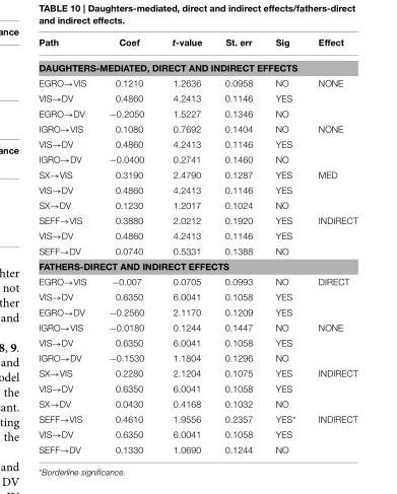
<table><thead><tr><td>Path</td><td>Coef</td><td>t-value</td><td>St. err</td><td>Sig</td><td>Effect</td></tr></thead><tbody><tr><td colspan="6">DAUGHTERS-MEDIATED, DIRECT AND INDIRECT EFFECTS</td></tr><tr><td>EGRO→VIS</td><td>0.1210</td><td>1.2636</td><td>0.0958</td><td>NO</td><td>NONE</td></tr><tr><td>VIS→DV</td><td>0.4860</td><td>4.2413</td><td>0.1146</td><td>YES</td><td></td></tr><tr><td>EGRO→DV</td><td>−0.2050</td><td>1.5227</td><td>0.1346</td><td>NO</td><td></td></tr><tr><td>IGRO→VIS</td><td>0.1080</td><td>0.7692</td><td>0.1404</td><td>NO</td><td>NONE</td></tr><tr><td>VIS→DV</td><td>0.4860</td><td>4.2413</td><td>0.1146</td><td>YES</td><td></td></tr><tr><td>IGRO→DV</td><td>−0.0400</td><td>0.2741</td><td>0.1460</td><td>NO</td><td></td></tr><tr><td>SX→VIS</td><td>0.3190</td><td>2.4790</td><td>0.1287</td><td>YES</td><td>MED</td></tr><tr><td>VIS→DV</td><td>0.4860</td><td>4.2413</td><td>0.1146</td><td>YES</td><td></td></tr><tr><td>SX→DV</td><td>0.1230</td><td>1.2017</td><td>0.1024</td><td>NO</td><td></td></tr><tr><td>SEFF→VIS</td><td>0.3880</td><td>2.0212</td><td>0.1920</td><td>YES</td><td>INDIRECT</td></tr><tr><td>VIS→DV</td><td>0.4860</td><td>4.2413</td><td>0.1146</td><td>YES</td><td></td></tr><tr><td>SEFF→DV</td><td>0.0740</td><td>0.5331</td><td>0.1388</td><td>NO</td><td></td></tr><tr><td colspan="6">FATHERS-DIRECT AND INDIRECT EFFECTS</td></tr><tr><td>EGRO→VIS</td><td>−0.007</td><td>0.0705</td><td>0.0993</td><td>NO</td><td>DIRECT</td></tr><tr><td>VIS→DV</td><td>0.6350</td><td>6.0041</td><td>0.1058</td><td>YES</td><td></td></tr><tr><td>EGRO→DV</td><td>−0.2560</td><td>2.1170</td><td>0.1209</td><td>YES</td><td></td></tr><tr><td>IGRO→VIS</td><td>−0.0180</td><td>0.1244</td><td>0.1447</td><td>NO</td><td>NONE</td></tr><tr><td>VIS→DV</td><td>0.6350</td><td>6.0041</td><td>0.1058</td><td>YES</td><td></td></tr><tr><td>IGRO→DV</td><td>−0.1530</td><td>1.1804</td><td>0.1296</td><td>NO</td><td></td></tr><tr><td>SX→VIS</td><td>0.2280</td><td>2.1204</td><td>0.1075</td><td>YES</td><td>INDIRECT</td></tr><tr><td>VIS→DV</td><td>0.6350</td><td>6.0041</td><td>0.1058</td><td>YES</td><td></td></tr><tr><td>SX→DV</td><td>0.0430</td><td>0.4168</td><td>0.1032</td><td>NO</td><td></td></tr><tr><td>SEFF→VIS</td><td>0.4610</td><td>1.9556</td><td>0.2357</td><td>YES*</td><td>INDIRECT</td></tr><tr><td>VIS→DV</td><td>0.6350</td><td>6.0041</td><td>0.1058</td><td>YES</td><td></td></tr><tr><td>SEFF→DV</td><td>0.1330</td><td>1.0690</td><td>0.1244</td><td>NO</td><td></td></tr></tbody></table>